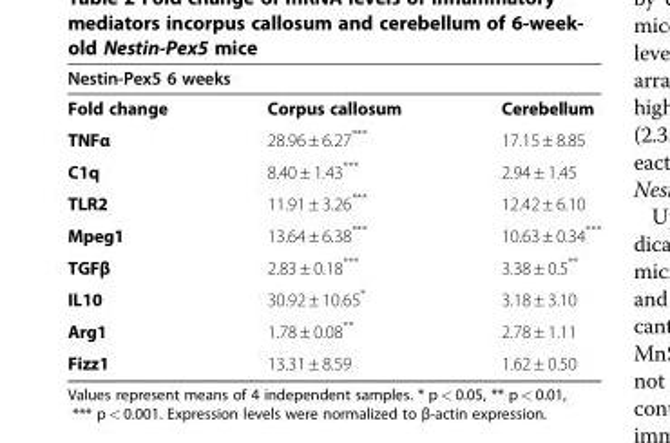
<table><thead><tr><td colspan="3">Nestin-Pex5 6 weeks</td></tr><tr><td>Fold change</td><td>Corpus callosum</td><td>Cerebellum</td></tr></thead><tbody><tr><td>TNFα</td><td>28.96 ± 6.27***</td><td>17.15 ± 8.85</td></tr><tr><td>C1q</td><td>8.40 ± 1.43***</td><td>2.94 ± 1.45</td></tr><tr><td>TLR2</td><td>11.91 ± 3.26***</td><td>12.42 ± 6.10</td></tr><tr><td>Mpeg1</td><td>13.64 ± 6.38***</td><td>10.63 ± 0.34***</td></tr><tr><td>TGFβ</td><td>2.83 ± 0.18***</td><td>3.38 ± 0.5**</td></tr><tr><td>IL10</td><td>30.92 ± 10.65*</td><td>3.18 ± 3.10</td></tr><tr><td>Arg1</td><td>1.78 ± 0.08**</td><td>2.78 ± 1.11</td></tr><tr><td>Fizz1</td><td>13.31 ± 8.59</td><td>1.62 ± 0.50</td></tr></tbody></table>